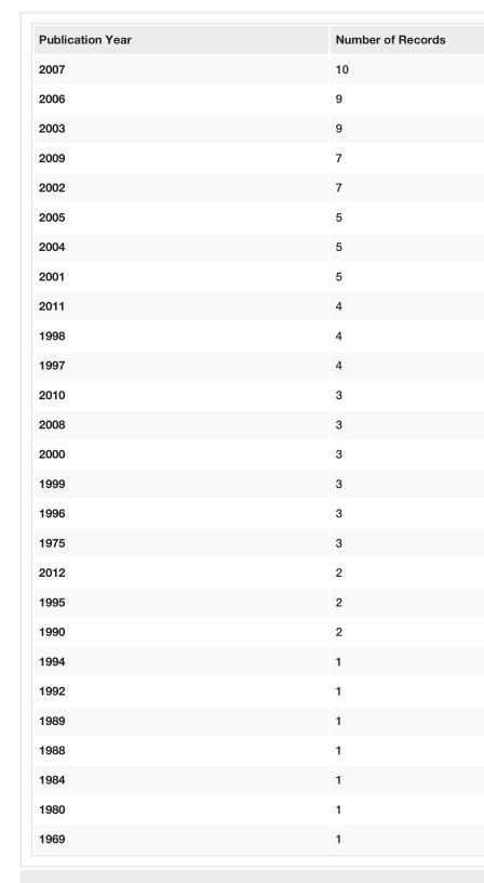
<table><tbody><tr><td>Publication Year</td><td>Number of Records</td></tr><tr><td>2007</td><td>10</td></tr><tr><td>2006</td><td>9</td></tr><tr><td>2003</td><td>9</td></tr><tr><td>2009</td><td>7</td></tr><tr><td>2002</td><td>7</td></tr><tr><td>2005</td><td>5</td></tr><tr><td>2004</td><td>5</td></tr><tr><td>2001</td><td>5</td></tr><tr><td>2011</td><td>4</td></tr><tr><td>1998</td><td>4</td></tr><tr><td>1997</td><td>4</td></tr><tr><td>2010</td><td>3</td></tr><tr><td>2008</td><td>3</td></tr><tr><td>2000</td><td>3</td></tr><tr><td>1999</td><td>3</td></tr><tr><td>1996</td><td>3</td></tr><tr><td>1975</td><td>3</td></tr><tr><td>2012</td><td>2</td></tr><tr><td>1995</td><td>2</td></tr><tr><td>1990</td><td>2</td></tr><tr><td>1994</td><td>1</td></tr><tr><td>1992</td><td>1</td></tr><tr><td>1989</td><td>1</td></tr><tr><td>1988</td><td>1</td></tr><tr><td>1984</td><td>1</td></tr><tr><td>1980</td><td>1</td></tr><tr><td>1969</td><td>1</td></tr></tbody></table>